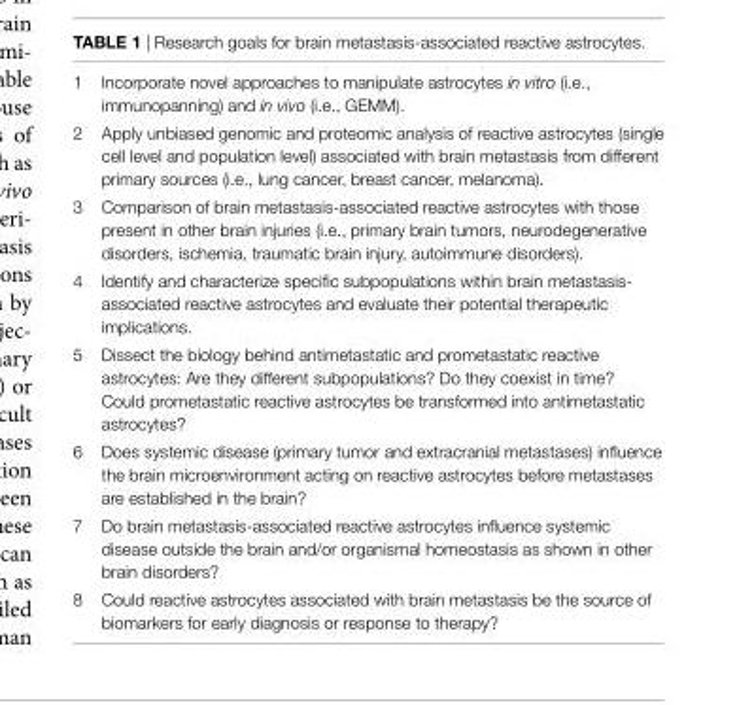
<table><tbody><tr><td>1</td><td>Incorporate novel approaches to manipulate astrocytes in vitro (i.e., immunopanning) and in vivo (i.e., GEMM).</td></tr><tr><td>2</td><td>Apply unbiased genomic and proteomic analysis of reactive astrocytes (single cell level and population level) associated with brain metastasis from different primary sources (i.e., lung cancer, breast cancer, melanoma).</td></tr><tr><td>3</td><td>Comparison of brain metastasis-associated reactive astrocytes with those present in other brain injuries (i.e., primary brain tumors, neurodegenerative disorders, ischemia, traumatic brain injury, autoimmune disorders).</td></tr><tr><td>4</td><td>Identify and characterize specific subpopulations within brain metastasis- associated reactive astrocytes and evaluate their potential therapeutic implications.</td></tr><tr><td>5</td><td>Dissect the biology behind antimetastatic and prometastatic reactive astrocytes: Are they different subpopulations? Do they coexist in time? Could prometastatic reactive astrocytes be transformed into antimetastatic astrocytes?</td></tr><tr><td>6</td><td>Does systemic disease (primary tumor and extracranial metastases) influence the brain microenvironment acting on reactive astrocytes before metastases are established in the brain?</td></tr><tr><td>7</td><td>Do brain metastasis-associated reactive astrocytes influence systemic disease outside the brain and/or organismal homeostasis as shown in other brain disorders?</td></tr><tr><td>8</td><td>Could reactive astrocytes associated with brain metastasis be the source of biomarkers for early diagnosis or response to therapy?</td></tr></tbody></table>